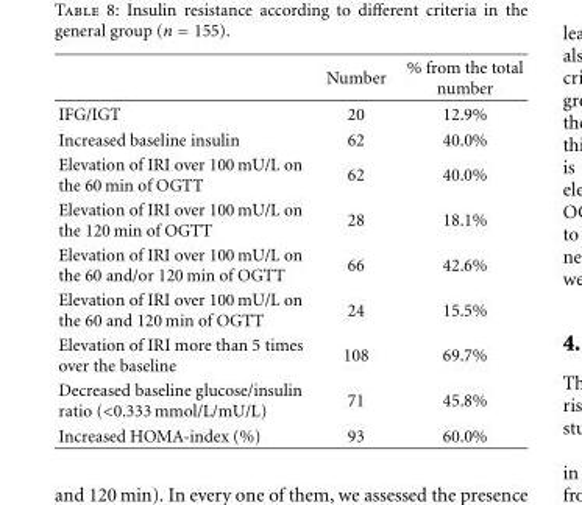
<table><thead><tr><td></td><td>Number</td><td>% from the total number</td></tr></thead><tbody><tr><td>IFG/IGT</td><td>20</td><td>12.9%</td></tr><tr><td>Increased baseline insulin</td><td>62</td><td>40.0%</td></tr><tr><td>Elevation of IRI over 100 mU/L on the 60 min of OGTT</td><td>62</td><td>40.0%</td></tr><tr><td>Elevation of IRI over 100 mU/L on the 120 min of OGTT</td><td>28</td><td>18.1%</td></tr><tr><td>Elevation of IRI over 100 mU/L on the 60 and/or 120 min of OGTT</td><td>66</td><td>42.6%</td></tr><tr><td>Elevation of IRI over 100 mU/L on the 60 and 120 min of OGTT</td><td>24</td><td>15.5%</td></tr><tr><td>Elevation of IRI more than 5 times over the baseline</td><td>108</td><td>69.7%</td></tr><tr><td>Decreased baseline glucose/insulin ratio (&lt;0.333 mmol/L/mU/L)</td><td>71</td><td>45.8%</td></tr><tr><td>Increased HOMA-index (%)</td><td>93</td><td>60.0%</td></tr></tbody></table>